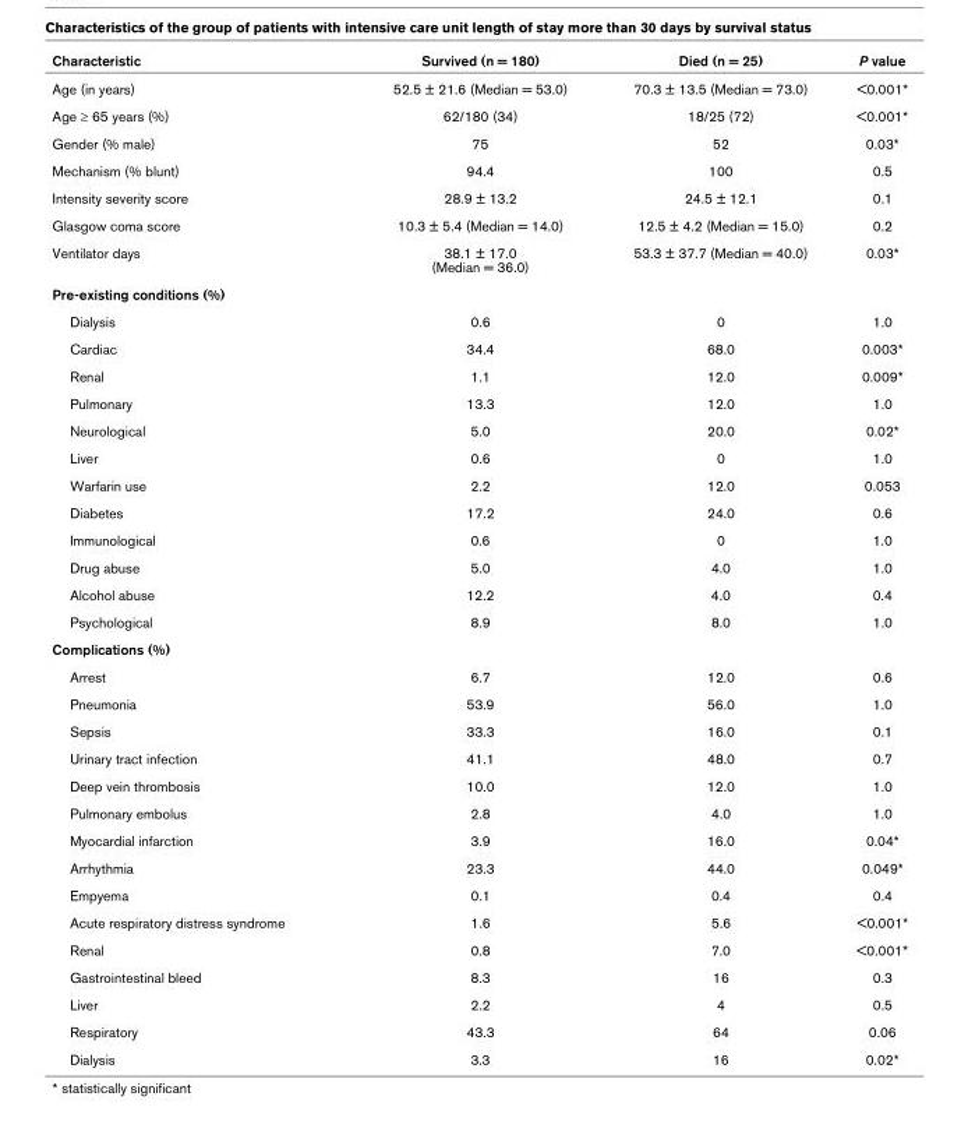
<table><thead><tr><td>Characteristic</td><td>Survived (n = 180)</td><td>Died (n = 25)</td><td>P value</td></tr></thead><tbody><tr><td>Age (in years)</td><td>52.5 ± 21.6 (Median = 53.0)</td><td>70.3 ± 13.5 (Median = 73.0)</td><td>&lt;0.001*</td></tr><tr><td>Age ≥ 65 years (%)</td><td>62/180 (34)</td><td>18/25 (72)</td><td>&lt;0.001*</td></tr><tr><td>Gender (% male)</td><td>75</td><td>52</td><td>0.03*</td></tr><tr><td>Mechanism (% blunt)</td><td>94.4</td><td>100</td><td>0.5</td></tr><tr><td>Intensity severity score</td><td>28.9 ± 13.2</td><td>24.5 ± 12.1</td><td>0.1</td></tr><tr><td>Glasgow coma score</td><td>10.3 ± 5.4 (Median = 14.0)</td><td>12.5 ± 4.2 (Median = 15.0)</td><td>0.2</td></tr><tr><td>Ventilator days</td><td>38.1 ± 17.0 (Median = 36.0)</td><td>53.3 ± 37.7 (Median = 40.0)</td><td>0.03*</td></tr><tr><td colspan="4">Pre-existing conditions (%)</td></tr><tr><td>Dialysis</td><td>0.6</td><td>0</td><td>1.0</td></tr><tr><td>Cardiac</td><td>34.4</td><td>68.0</td><td>0.003*</td></tr><tr><td>Renal</td><td>1.1</td><td>12.0</td><td>0.009*</td></tr><tr><td>Pulmonary</td><td>13.3</td><td>12.0</td><td>1.0</td></tr><tr><td>Neurological</td><td>5.0</td><td>20.0</td><td>0.02*</td></tr><tr><td>Liver</td><td>0.6</td><td>0</td><td>1.0</td></tr><tr><td>Warfarin use</td><td>2.2</td><td>12.0</td><td>0.053</td></tr><tr><td>Diabetes</td><td>17.2</td><td>24.0</td><td>0.6</td></tr><tr><td>Immunological</td><td>0.6</td><td>0</td><td>1.0</td></tr><tr><td>Drug abuse</td><td>5.0</td><td>4.0</td><td>1.0</td></tr><tr><td>Alcohol abuse</td><td>12.2</td><td>4.0</td><td>0.4</td></tr><tr><td>Psychological</td><td>8.9</td><td>8.0</td><td>1.0</td></tr><tr><td colspan="4">Complications (%)</td></tr><tr><td>Arrest</td><td>6.7</td><td>12.0</td><td>0.6</td></tr><tr><td>Pneumonia</td><td>53.9</td><td>56.0</td><td>1.0</td></tr><tr><td>Sepsis</td><td>33.3</td><td>16.0</td><td>0.1</td></tr><tr><td>Urinary tract infection</td><td>41.1</td><td>48.0</td><td>0.7</td></tr><tr><td>Deep vein thrombosis</td><td>10.0</td><td>12.0</td><td>1.0</td></tr><tr><td>Pulmonary embolus</td><td>2.8</td><td>4.0</td><td>1.0</td></tr><tr><td>Myocardial infarction</td><td>3.9</td><td>16.0</td><td>0.04*</td></tr><tr><td>Arrhythmia</td><td>23.3</td><td>44.0</td><td>0.049*</td></tr><tr><td>Empyema</td><td>0.1</td><td>0.4</td><td>0.4</td></tr><tr><td>Acute respiratory distress syndrome</td><td>1.6</td><td>5.6</td><td>&lt;0.001*</td></tr><tr><td>Renal</td><td>0.8</td><td>7.0</td><td>&lt;0.001*</td></tr><tr><td>Gastrointestinal bleed</td><td>8.3</td><td>16</td><td>0.3</td></tr><tr><td>Liver</td><td>2.2</td><td>4</td><td>0.5</td></tr><tr><td>Respiratory</td><td>43.3</td><td>64</td><td>0.06</td></tr><tr><td>Dialysis</td><td>3.3</td><td>16</td><td>0.02*</td></tr></tbody></table>